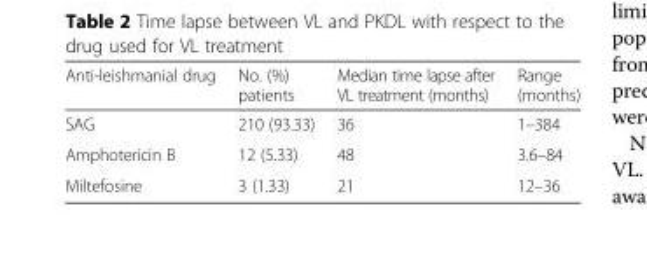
<table><thead><tr><td>Anti-leishmanial drug</td><td>No. (%) patients</td><td>Median time lapse after VL treatment (months)</td><td>Range (months)</td></tr></thead><tbody><tr><td>SAG</td><td>210 (93.33)</td><td>36</td><td>1–384</td></tr><tr><td>Amphotericin B</td><td>12 (5.33)</td><td>48</td><td>3.6–84</td></tr><tr><td>Miltefosine</td><td>3 (1.33)</td><td>21</td><td>12–36</td></tr></tbody></table>